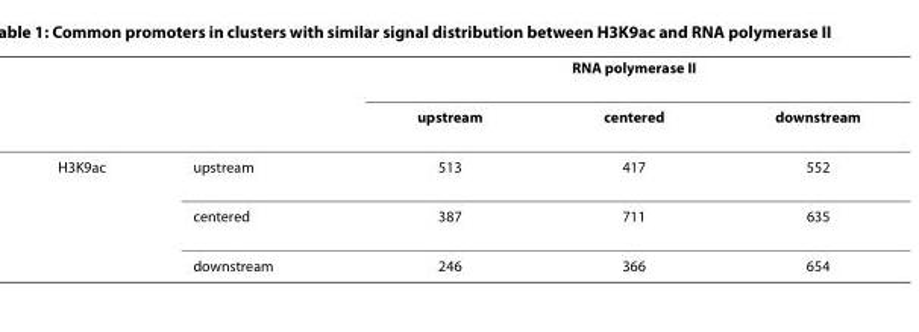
<table><thead><tr><td rowspan="2"></td><td rowspan="2"></td><td colspan="3">RNA polymerase II</td></tr><tr><td>upstream</td><td>centered</td><td>downstream</td></tr></thead><tbody><tr><td rowspan="3">H3K9ac</td><td>upstream</td><td>513</td><td>417</td><td>552</td></tr><tr><td>centered</td><td>387</td><td>711</td><td>635</td></tr><tr><td>downstream</td><td>246</td><td>366</td><td>654</td></tr></tbody></table>